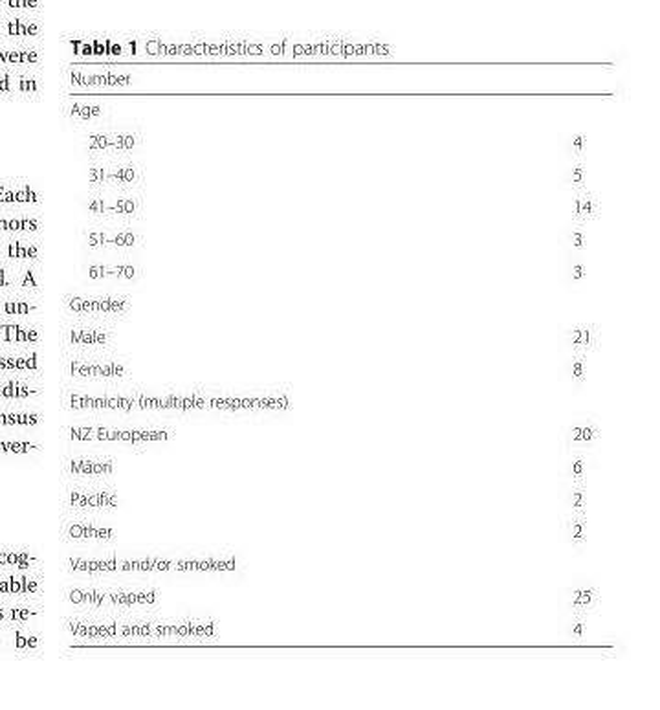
<table><thead><tr><td rowspan="2" colspan="2">Number Age</td></tr><tr></tr><tr><td>20–30</td><td>4</td></tr></thead><tbody><tr><td>31–40</td><td>5</td></tr><tr><td>41–50</td><td>14</td></tr><tr><td>51–60</td><td>3</td></tr><tr><td>61–70</td><td>3</td></tr><tr><td colspan="2">Gender</td></tr><tr><td>Male</td><td>21</td></tr><tr><td>Female</td><td>8</td></tr><tr><td colspan="2">Ethnicity (multiple responses)</td></tr><tr><td>NZ European</td><td>20</td></tr><tr><td>Māori</td><td>6</td></tr><tr><td>Pacific</td><td>2</td></tr><tr><td>Other</td><td>2</td></tr><tr><td colspan="2">Vaped and/or smoked</td></tr><tr><td>Only vaped</td><td>25</td></tr><tr><td>Vaped and smoked</td><td>4</td></tr></tbody></table>